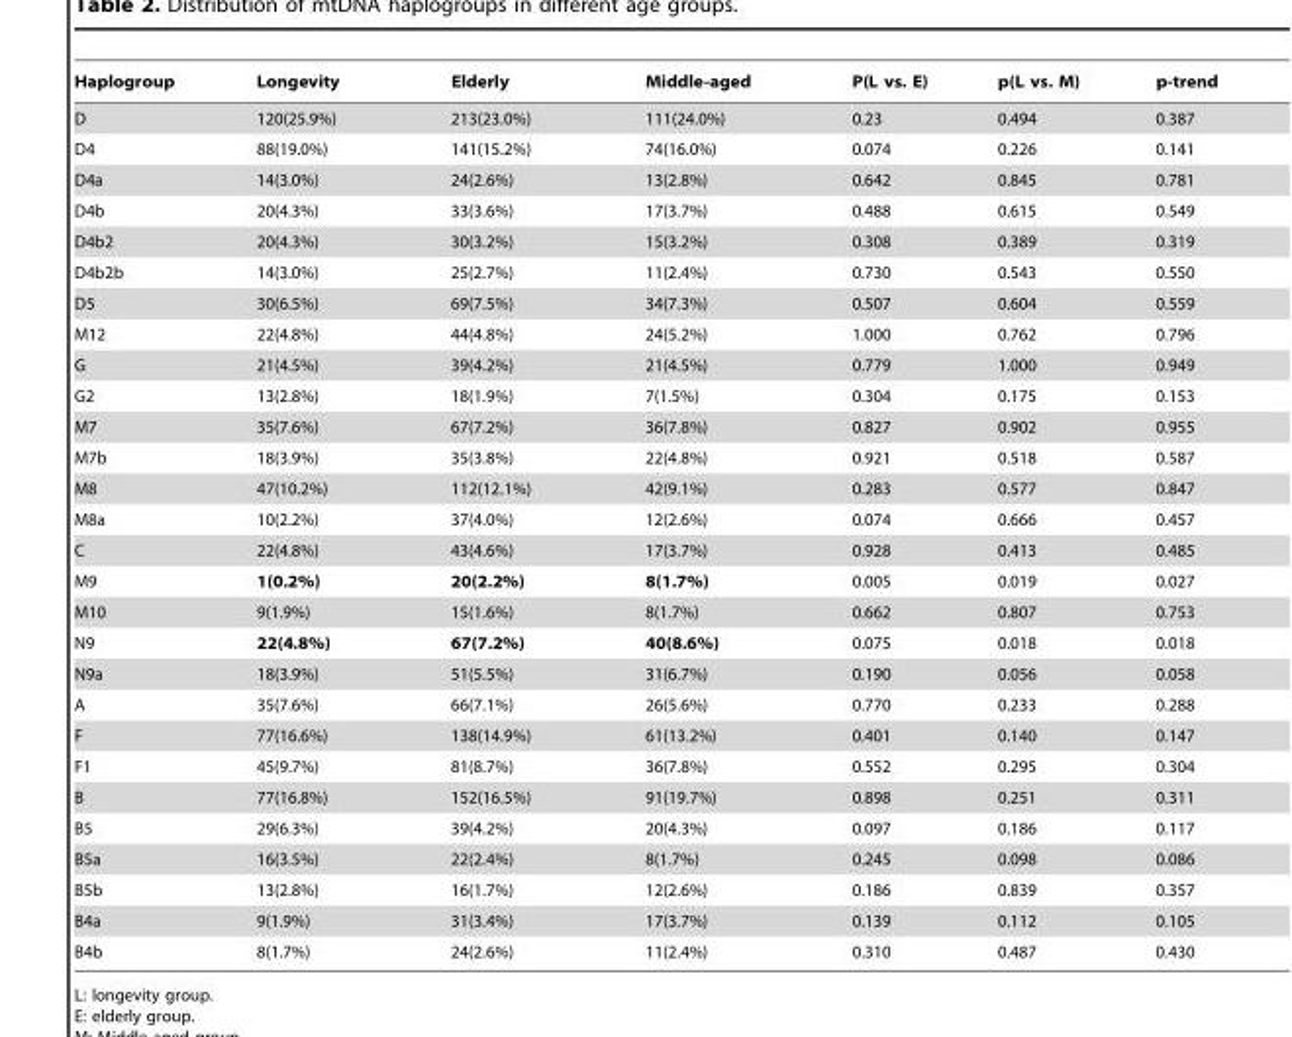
<table><thead><tr><td>Haplogroup</td><td>Longevity</td><td>Elderly</td><td>Middle-aged</td><td>P(L vs. E)</td><td>p(L vs. M)</td><td>p-trend</td></tr></thead><tbody><tr><td>D</td><td>120(25.9%)</td><td>213(23.0%)</td><td>111(24.0%)</td><td>0.23</td><td>0.494</td><td>0.387</td></tr><tr><td>D4</td><td>88(19.0%)</td><td>141(15.2%)</td><td>74(16.0%)</td><td>0.074</td><td>0.226</td><td>0.141</td></tr><tr><td>D4a</td><td>14(3.0%)</td><td>24(2.6%)</td><td>13(2.8%)</td><td>0.642</td><td>0.845</td><td>0.781</td></tr><tr><td>D4b</td><td>20(4.3%)</td><td>33(3.6%)</td><td>17(3.7%)</td><td>0.488</td><td>0.615</td><td>0.549</td></tr><tr><td>D4b2</td><td>20(4.3%)</td><td>30(3.2%)</td><td>15(3.2%)</td><td>0.308</td><td>0.389</td><td>0.319</td></tr><tr><td>D4b2b</td><td>14(3.0%)</td><td>25(2.7%)</td><td>11(2.4%)</td><td>0.730</td><td>0.543</td><td>0.550</td></tr><tr><td>D5</td><td>30(6.5%)</td><td>69(7.5%)</td><td>34(7.3%)</td><td>0.507</td><td>0.604</td><td>0.559</td></tr><tr><td>M12</td><td>22(4.8%)</td><td>44(4.8%)</td><td>24(5.2%)</td><td>1.000</td><td>0.762</td><td>0.796</td></tr><tr><td>G</td><td>21(4.5%)</td><td>39(4.2%)</td><td>21(4.5%)</td><td>0.779</td><td>1.000</td><td>0.949</td></tr><tr><td>G2</td><td>13(2.8%)</td><td>18(1.9%)</td><td>7(1.5%)</td><td>0.304</td><td>0.175</td><td>0.153</td></tr><tr><td>M7</td><td>35(7.6%)</td><td>67(7.2%)</td><td>36(7.8%)</td><td>0.827</td><td>0.902</td><td>0.955</td></tr><tr><td>M7b</td><td>18(3.9%)</td><td>35(3.8%)</td><td>22(4.8%)</td><td>0.921</td><td>0.518</td><td>0.587</td></tr><tr><td>M8</td><td>47(10.2%)</td><td>112(12.1%)</td><td>42(9.1%)</td><td>0.283</td><td>0.577</td><td>0.847</td></tr><tr><td>M8a</td><td>10(2.2%)</td><td>37(4.0%)</td><td>12(2.6%)</td><td>0.074</td><td>0.666</td><td>0.457</td></tr><tr><td>C</td><td>22(4.8%)</td><td>43(4.6%)</td><td>17(3.7%)</td><td>0.928</td><td>0.413</td><td>0.485</td></tr><tr><td>M9</td><td>1(0.2%)</td><td>20(2.2%)</td><td>8(1.7%)</td><td>0.005</td><td>0.019</td><td>0.027</td></tr><tr><td>M10</td><td>9(1.9%)</td><td>15(1.6%)</td><td>8(1.7%)</td><td>0.662</td><td>0.807</td><td>0.753</td></tr><tr><td>N9</td><td>22(4.8%)</td><td>67(7.2%)</td><td>40(8.6%)</td><td>0.075</td><td>0.018</td><td>0.018</td></tr><tr><td>N9a</td><td>18(3.9%)</td><td>51(5.5%)</td><td>31(6.7%)</td><td>0.190</td><td>0.056</td><td>0.058</td></tr><tr><td>A</td><td>35(7.6%)</td><td>66(7.1%)</td><td>26(5.6%)</td><td>0.770</td><td>0.233</td><td>0.288</td></tr><tr><td>F</td><td>77(16.6%)</td><td>138(14.9%)</td><td>61(13.2%)</td><td>0.401</td><td>0.140</td><td>0.147</td></tr><tr><td>F1</td><td>45(9.7%)</td><td>81(8.7%)</td><td>36(7.8%)</td><td>0.552</td><td>0.295</td><td>0.304</td></tr><tr><td>B</td><td>77(16.8%)</td><td>152(16.5%)</td><td>91(19.7%)</td><td>0.898</td><td>0.251</td><td>0.311</td></tr><tr><td>B5</td><td>29(6.3%)</td><td>39(4.2%)</td><td>20(4.3%)</td><td>0.097</td><td>0.186</td><td>0.117</td></tr><tr><td>B5a</td><td>16(3.5%)</td><td>22(2.4%)</td><td>8(1.7%)</td><td>0.245</td><td>0.098</td><td>0.086</td></tr><tr><td>B5b</td><td>13(2.8%)</td><td>16(1.7%)</td><td>12(2.6%)</td><td>0.186</td><td>0.839</td><td>0.357</td></tr><tr><td>B4a</td><td>9(1.9%)</td><td>31(3.4%)</td><td>17(3.7%)</td><td>0.139</td><td>0.112</td><td>0.105</td></tr><tr><td>B4b</td><td>8(1.7%)</td><td>24(2.6%)</td><td>11(2.4%)</td><td>0.310</td><td>0.487</td><td>0.430</td></tr></tbody></table>